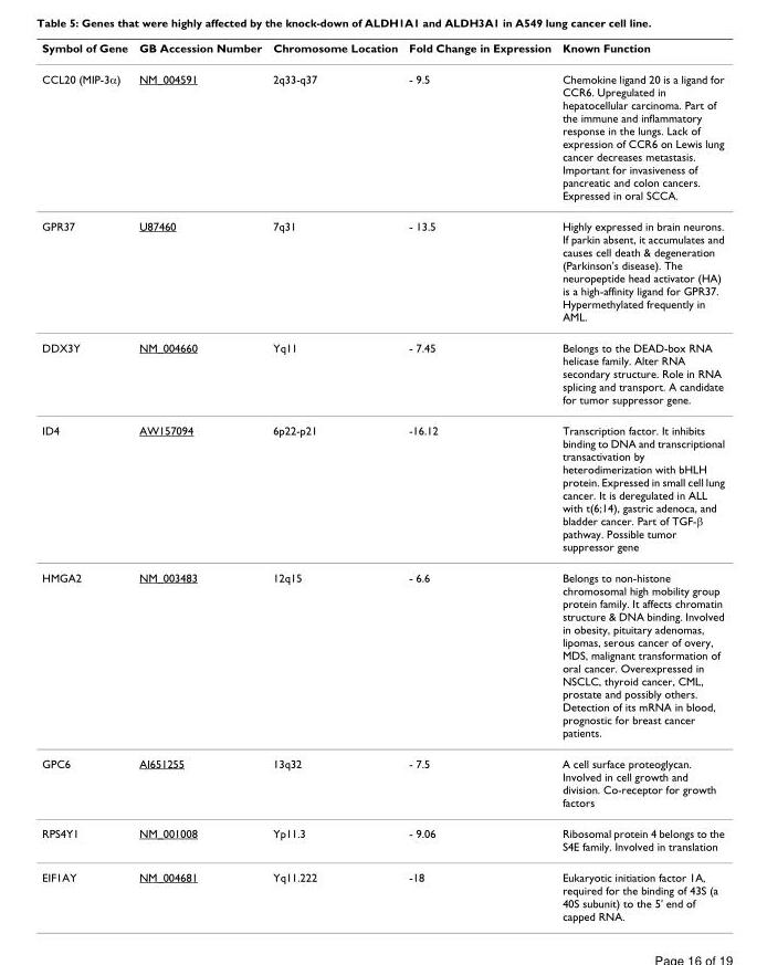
<table><thead><tr><td>Symbol of Gene</td><td>GB Accession Number</td><td>Chromosome Location</td><td>Fold Change in Expression</td><td>Known Function</td></tr></thead><tbody><tr><td>CCL20 (MIP-3α)</td><td>NM_004591</td><td>2q33-q37</td><td>- 9.5</td><td>Chemokine ligand 20 is a ligand for CCR6. Upregulated in hepatocellular carcinoma. Part of the immune and inflammatory response in the lungs. Lack of expression of CCR6 on Lewis lung cancer decreases metastasis. Important for invasiveness of pancreatic and colon cancers. Expressed in oral SCCA.</td></tr><tr><td>GPR37</td><td>U87460</td><td>7q31</td><td>- 13.5</td><td>Highly expressed in brain neurons. If parkin absent, it accumulates and causes cell death &amp; degeneration (Parkinson&#x27;s disease). The neuropeptide head activator (HA) is a high-affinity ligand for GPR37. Hypermethylated frequently in AML.</td></tr><tr><td>DDX3Y</td><td>NM_004660</td><td>Yq11</td><td>- 7.45</td><td>Belongs to the DEAD-box RNA helicase family. Alter RNA secondary structure. Role in RNA splicing and transport. A candidate for tumor suppressor gene.</td></tr><tr><td>ID4</td><td>AW157094</td><td>6p22-p21</td><td>-16.12</td><td>Transcription factor. It inhibits binding to DNA and transcriptional transactivation by heterodimerization with bHLH protein. Expressed in small cell lung cancer. It is deregulated in ALL with t(6;14), gastric adenoca, and bladder cancer. Part of TGF-β pathway. Possible tumor suppressor gene</td></tr><tr><td>HMGA2</td><td>NM_003483</td><td>12q15</td><td>- 6.6</td><td>Belongs to non-histone chromosomal high mobility group protein family. It affects chromatin structure &amp; DNA binding. Involved in obesity, pituitary adenomas, lipomas, serous cancer of overy, MDS, malignant transformation of oral cancer. Overexpressed in NSCLC, thyroid cancer, CML, prostate and possibly others. Detection of its mRNA in blood, prognostic for breast cancer patients.</td></tr><tr><td>GPC6</td><td>AI651255</td><td>13q32</td><td>- 7.5</td><td>A cell surface proteoglycan. Involved in cell growth and division. Co-receptor for growth factors</td></tr><tr><td>RPS4Y1</td><td>NM_001008</td><td>Yp11.3</td><td>- 9.06</td><td>Ribosomal protein 4 belongs to the S4E family. Involved in translation</td></tr><tr><td>EIF1AY</td><td>NM_004681</td><td>Yq11.222</td><td>-18</td><td>Eukaryotic initiation factor 1A, required for the binding of 43S (a 40S subunit) to the 5&#x27; end of capped RNA.</td></tr></tbody></table>